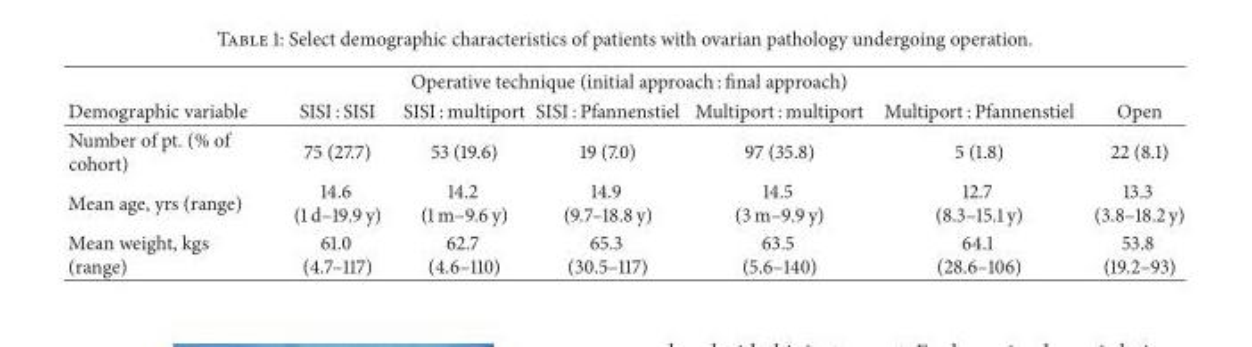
<table><thead><tr><td colspan="7">Operative technique (initial approach : final approach)</td></tr><tr><td>Demographic variable</td><td>SISI : SISI</td><td>SISI : multiport</td><td>SISI : Pfannenstiel</td><td>Multiport : multiport</td><td>Multiport : Pfannenstiel</td><td>Open</td></tr></thead><tbody><tr><td>Number of pt. (% of cohort)</td><td>75 (27.7)</td><td>53 (19.6)</td><td>19 (7.0)</td><td>97 (35.8)</td><td>5 (1.8)</td><td>22 (8.1)</td></tr><tr><td>Mean age, yrs (range)</td><td>14.6 (1 d–19.9 y)</td><td>14.2 (1 m–9.6 y)</td><td>14.9 (9.7–18.8 y)</td><td>14.5 (3 m–9.9 y)</td><td>12.7 (8.3–15.1 y)</td><td>13.3 (3.8–18.2 y)</td></tr><tr><td>Mean weight, kgs (range)</td><td>61.0 (4.7–117)</td><td>62.7 (4.6–110)</td><td>65.3 (30.5–117)</td><td>63.5 (5.6–140)</td><td>64.1 (28.6–106)</td><td>53.8 (19.2–93)</td></tr></tbody></table>